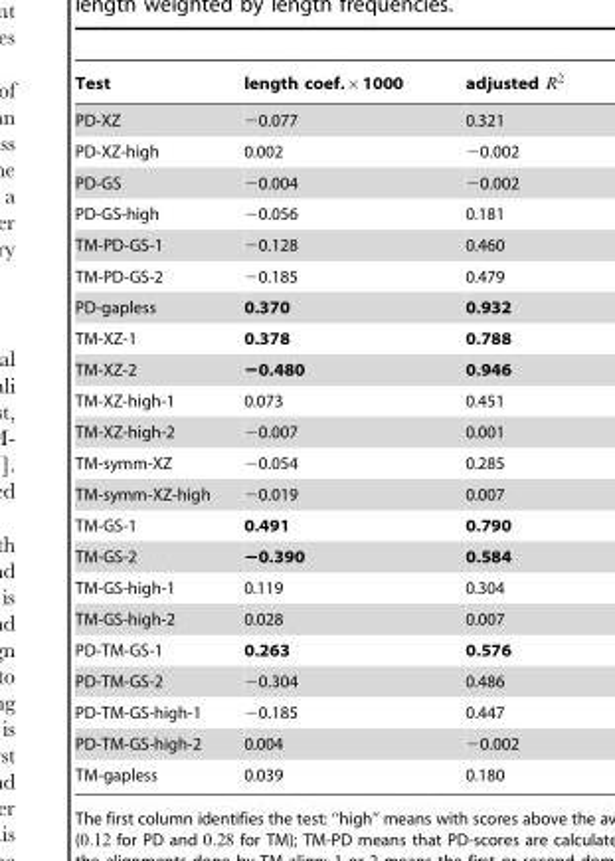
<table><thead><tr><td>Test</td><td>length coef.|1000</td><td>adjusted</td></tr></thead><tbody><tr><td>PD-XZ</td><td>−0.077</td><td>0.321</td></tr><tr><td>PD-XZ-high</td><td>0.002</td><td>−0.002</td></tr><tr><td>PD-GS</td><td>−0.004</td><td>−0.002</td></tr><tr><td>PD-GS-high</td><td>−0.056</td><td>0.181</td></tr><tr><td>TM-PD-GS-1</td><td>−0.128</td><td>0.460</td></tr><tr><td>TM-PD-GS-2</td><td>−0.185</td><td>0.479</td></tr><tr><td>PD-gapless</td><td>0.370</td><td>0.932</td></tr><tr><td>TM-XZ-1</td><td>0.378</td><td>0.788</td></tr><tr><td>TM-XZ-2</td><td>−0.480</td><td>0.946</td></tr><tr><td>TM-XZ-high-1</td><td>0.073</td><td>0.451</td></tr><tr><td>TM-XZ-high-2</td><td>−0.007</td><td>0.001</td></tr><tr><td>TM-symm-XZ</td><td>−0.054</td><td>0.285</td></tr><tr><td>TM-symm-XZ-high</td><td>−0.019</td><td>0.007</td></tr><tr><td>TM-GS-1</td><td>0.491</td><td>0.790</td></tr><tr><td>TM-GS-2</td><td>−0.390</td><td>0.584</td></tr><tr><td>TM-GS-high-1</td><td>0.119</td><td>0.304</td></tr><tr><td>TM-GS-high-2</td><td>0.028</td><td>0.007</td></tr><tr><td>PD-TM-GS-1</td><td>0.263</td><td>0.576</td></tr><tr><td>PD-TM-GS-2</td><td>−0.304</td><td>0.486</td></tr><tr><td>PD-TM-GS-high-1</td><td>−0.185</td><td>0.447</td></tr><tr><td>PD-TM-GS-high-2</td><td>0.004</td><td>−0.002</td></tr><tr><td>TM-gapless</td><td>0.039</td><td>0.180</td></tr></tbody></table>